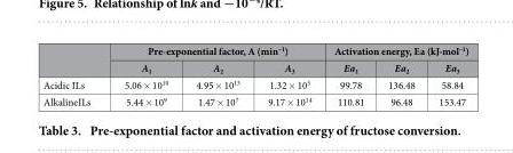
<table><thead><tr><td rowspan="2"></td><td colspan="3">Pre-exponential factor, A (min<sup>–1</sup>)</td><td colspan="3">Activation energy, Ea (kJ∙mol<sup>–1</sup>)</td></tr><tr><td>A<sub>1</sub></td><td>A<sub>2</sub></td><td>A<sub>3</sub></td><td>Ea<sub>1</sub></td><td>Ea<sub>2</sub></td><td>Ea<sub>3</sub></td></tr></thead><tbody><tr><td>Acidic ILs</td><td>5.06 × 10<sup>10</sup></td><td>4.95 × 10<sup>13</sup></td><td>1.32 × 10<sup>5</sup></td><td>99.78</td><td>136.48</td><td>58.84</td></tr><tr><td>AlkalineILs</td><td>5.44 × 10<sup>9</sup></td><td>1.47 × 10<sup>7</sup></td><td>9.17 × 10<sup>14</sup></td><td>110.81</td><td>96.48</td><td>153.47</td></tr></tbody></table>